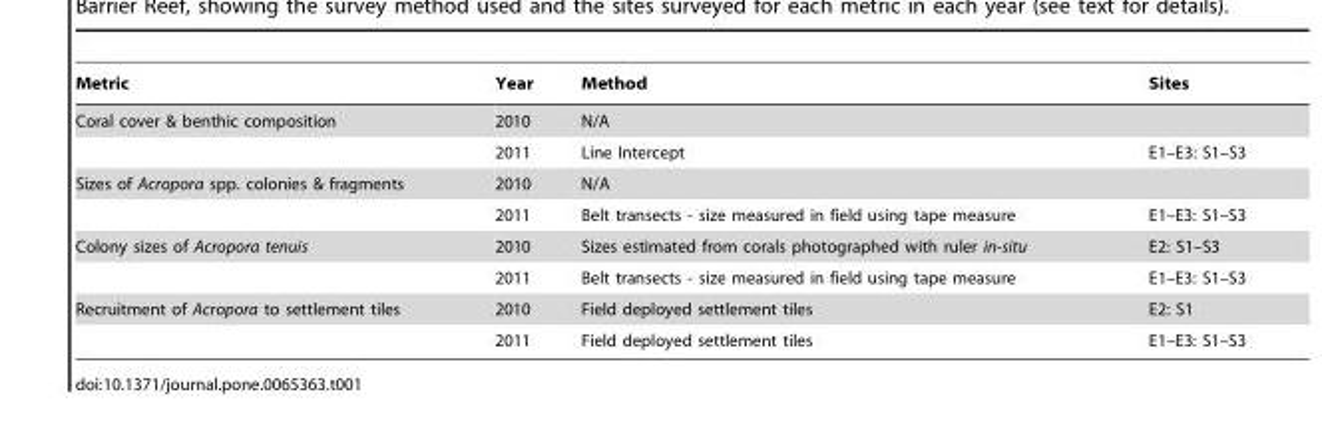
<table><thead><tr><td>Metric</td><td>Year</td><td>Method</td><td>Sites</td></tr></thead><tbody><tr><td rowspan="2">Coral cover &amp; benthic composition</td><td>2010</td><td>N/A</td><td></td></tr><tr><td>2011</td><td>Line Intercept</td><td>E1–E3: S1–S3</td></tr><tr><td rowspan="2">Sizes of Acropora spp. colonies &amp; fragments</td><td>2010</td><td>N/A</td><td></td></tr><tr><td>2011</td><td>Belt transects - size measured in field using tape measure</td><td>E1–E3: S1–S3</td></tr><tr><td rowspan="2">Colony sizes of Acropora tenuis</td><td>2010</td><td>Sizes estimated from corals photographed with ruler in-situ</td><td>E2: S1–S3</td></tr><tr><td>2011</td><td>Belt transects - size measured in field using tape measure</td><td>E1–E3: S1–S3</td></tr><tr><td rowspan="2">Recruitment of Acropora to settlement tiles</td><td>2010</td><td>Field deployed settlement tiles</td><td>E2: S1</td></tr><tr><td>2011</td><td>Field deployed settlement tiles</td><td>E1–E3: S1–S3</td></tr></tbody></table>